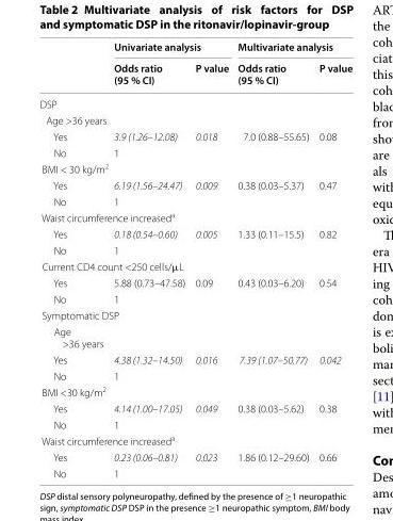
<table><thead><tr><td rowspan="2"></td><td colspan="2">Univariate analysis</td><td colspan="2">Multivariate analysis</td></tr><tr><td>Odds ratio (95 % CI)</td><td>P value</td><td>Odds ratio (95 % CI)</td><td>P value</td></tr></thead><tbody><tr><td colspan="5">DSP</td></tr><tr><td colspan="5">Age &gt;36 years</td></tr><tr><td>Yes</td><td>3.9 (1.26–12.08)</td><td>0.018</td><td>7.0 (0.88–55.65)</td><td>0.08</td></tr><tr><td>No</td><td>1</td><td></td><td></td><td></td></tr><tr><td colspan="5">BMI &lt; 30 kg/m<sup>2</sup></td></tr><tr><td>Yes</td><td>6.19 (1.56–24.47)</td><td>0.009</td><td>0.38 (0.03–5.37)</td><td>0.47</td></tr><tr><td>No</td><td>1</td><td></td><td></td><td></td></tr><tr><td colspan="5">Waist circumference increased<sup>a</sup></td></tr><tr><td>Yes</td><td>0.18 (0.54–0.60)</td><td>0.005</td><td>1.33 (0.11–15.5)</td><td>0.82</td></tr><tr><td>No</td><td>1</td><td></td><td></td><td></td></tr><tr><td colspan="5">Current CD4 count &lt;250 cells/μL</td></tr><tr><td>Yes</td><td>5.88 (0.73–47.58)</td><td>0.09</td><td>0.43 (0.03–6.20)</td><td>0.54</td></tr><tr><td>No</td><td>1</td><td></td><td></td><td></td></tr><tr><td colspan="5">Symptomatic DSP</td></tr><tr><td colspan="5">Age &gt;36 years</td></tr><tr><td>Yes</td><td>4.38 (1.32–14.50)</td><td>0.016</td><td>7.39 (1.07–50.77)</td><td>0.042</td></tr><tr><td>No</td><td>1</td><td></td><td></td><td></td></tr><tr><td colspan="5">BMI &lt;30 kg/m<sup>2</sup></td></tr><tr><td>Yes</td><td>4.14 (1.00–17.05)</td><td>0.049</td><td>0.38 (0.03–5.62)</td><td>0.38</td></tr><tr><td>No</td><td>1</td><td></td><td></td><td></td></tr><tr><td colspan="5">Waist circumference increased<sup>a</sup></td></tr><tr><td>Yes</td><td>0.23 (0.06–0.81)</td><td>0.023</td><td>1.86 (0.12–29.60)</td><td>0.66</td></tr><tr><td>No</td><td>1</td><td></td><td></td><td></td></tr></tbody></table>